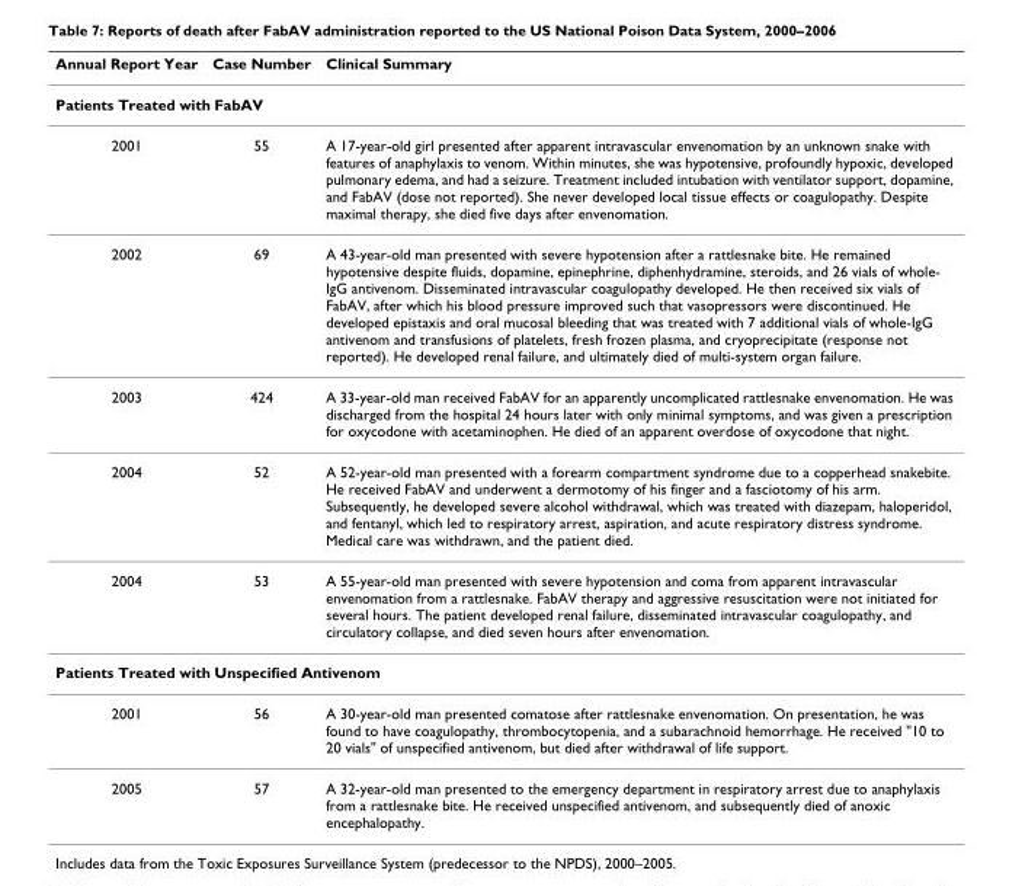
<table><thead><tr><td>Annual Report Year</td><td>Case Number</td><td>Clinical Summary</td></tr></thead><tbody><tr><td colspan="3">Patients Treated with FabAV</td></tr><tr><td>2001</td><td>55</td><td>A 17-year-old girl presented after apparent intravascular envenomation by an unknown snake with features of anaphylaxis to venom. Within minutes, she was hypotensive, profoundly hypoxic, developed pulmonary edema, and had a seizure. Treatment included intubation with ventilator support, dopamine, and FabAV (dose not reported). She never developed local tissue effects or coagulopathy. Despite maximal therapy, she died five days after envenomation.</td></tr><tr><td>2002</td><td>69</td><td>A 43-year-old man presented with severe hypotension after a rattlesnake bite. He remained hypotensive despite fluids, dopamine, epinephrine, diphenhydramine, steroids, and 26 vials of whole- IgG antivenom. Disseminated intravascular coagulopathy developed. He then received six vials of FabAV, after which his blood pressure improved such that vasopressors were discontinued. He developed epistaxis and oral mucosal bleeding that was treated with 7 additional vials of whole-IgG antivenom and transfusions of platelets, fresh frozen plasma, and cryoprecipitate (response not reported). He developed renal failure, and ultimately died of multi-system organ failure.</td></tr><tr><td>2003</td><td>424</td><td>A 33-year-old man received FabAV for an apparently uncomplicated rattlesnake envenomation. He was discharged from the hospital 24 hours later with only minimal symptoms, and was given a prescription for oxycodone with acetaminophen. He died of an apparent overdose of oxycodone that night.</td></tr><tr><td>2004</td><td>52</td><td>A 52-year-old man presented with a forearm compartment syndrome due to a copperhead snakebite. He received FabAV and underwent a dermotomy of his finger and a fasciotomy of his arm. Subsequently, he developed severe alcohol withdrawal, which was treated with diazepam, haloperidol, and fentanyl, which led to respiratory arrest, aspiration, and acute respiratory distress syndrome. Medical care was withdrawn, and the patient died.</td></tr><tr><td>2004</td><td>53</td><td>A 55-year-old man presented with severe hypotension and coma from apparent intravascular envenomation from a rattlesnake. FabAV therapy and aggressive resuscitation were not initiated for several hours. The patient developed renal failure, disseminated intravascular coagulopathy, and circulatory collapse, and died seven hours after envenomation.</td></tr><tr><td colspan="3">Patients Treated with Unspecified Antivenom</td></tr><tr><td>2001</td><td>56</td><td>A 30-year-old man presented comatose after rattlesnake envenomation. On presentation, he was found to have coagulopathy, thrombocytopenia, and a subarachnoid hemorrhage. He received &quot;10 to 20 vials&quot; of unspecified antivenom, but died after withdrawal of life support.</td></tr><tr><td>2005</td><td>57</td><td>A 32-year-old man presented to the emergency department in respiratory arrest due to anaphylaxis from a rattlesnake bite. He received unspecified antivenom, and subsequently died of anoxic encephalopathy.</td></tr></tbody></table>